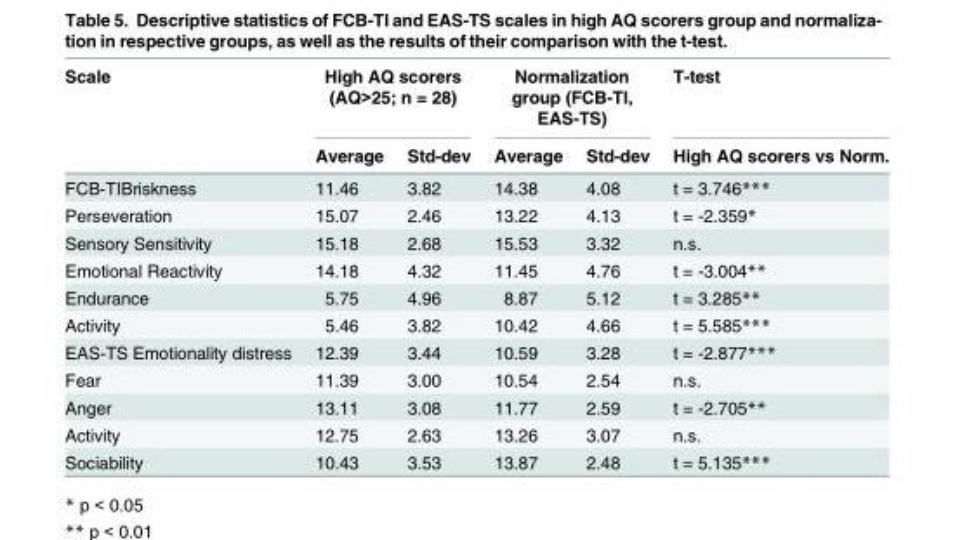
<table><thead><tr><td rowspan="2">Scale</td><td colspan="2">High AQ scorers (AQ&gt;25; n = 28)</td><td colspan="2">Normalization group (FCB-TI, EAS-TS)</td><td rowspan="2">T-test High AQ scorers vs Norm.</td></tr><tr><td>Average</td><td>Std-dev</td><td>Average</td><td>Std-dev</td></tr></thead><tbody><tr><td>FCB-TIBriskness</td><td>11.46</td><td>3.82</td><td>14.38</td><td>4.08</td><td>t = 3.746***</td></tr><tr><td>Perseveration</td><td>15.07</td><td>2.46</td><td>13.22</td><td>4.13</td><td>t = -2.359*</td></tr><tr><td>Sensory Sensitivity</td><td>15.18</td><td>2.68</td><td>15.53</td><td>3.32</td><td>n.s.</td></tr><tr><td>Emotional Reactivity</td><td>14.18</td><td>4.32</td><td>11.45</td><td>4.76</td><td>t = -3.004**</td></tr><tr><td>Endurance</td><td>5.75</td><td>4.96</td><td>8.87</td><td>5.12</td><td>t = 3.285**</td></tr><tr><td>Activity</td><td>5.46</td><td>3.82</td><td>10.42</td><td>4.66</td><td>t = 5.585***</td></tr><tr><td>EAS-TS Emotionality distress</td><td>12.39</td><td>3.44</td><td>10.59</td><td>3.28</td><td>t = -2.877***</td></tr><tr><td>Fear</td><td>11.39</td><td>3.00</td><td>10.54</td><td>2.54</td><td>n.s.</td></tr><tr><td>Anger</td><td>13.11</td><td>3.08</td><td>11.77</td><td>2.59</td><td>t = -2.705**</td></tr><tr><td>Activity</td><td>12.75</td><td>2.63</td><td>13.26</td><td>3.07</td><td>n.s.</td></tr><tr><td>Sociability</td><td>10.43</td><td>3.53</td><td>13.87</td><td>2.48</td><td>t = 5.135***</td></tr></tbody></table>